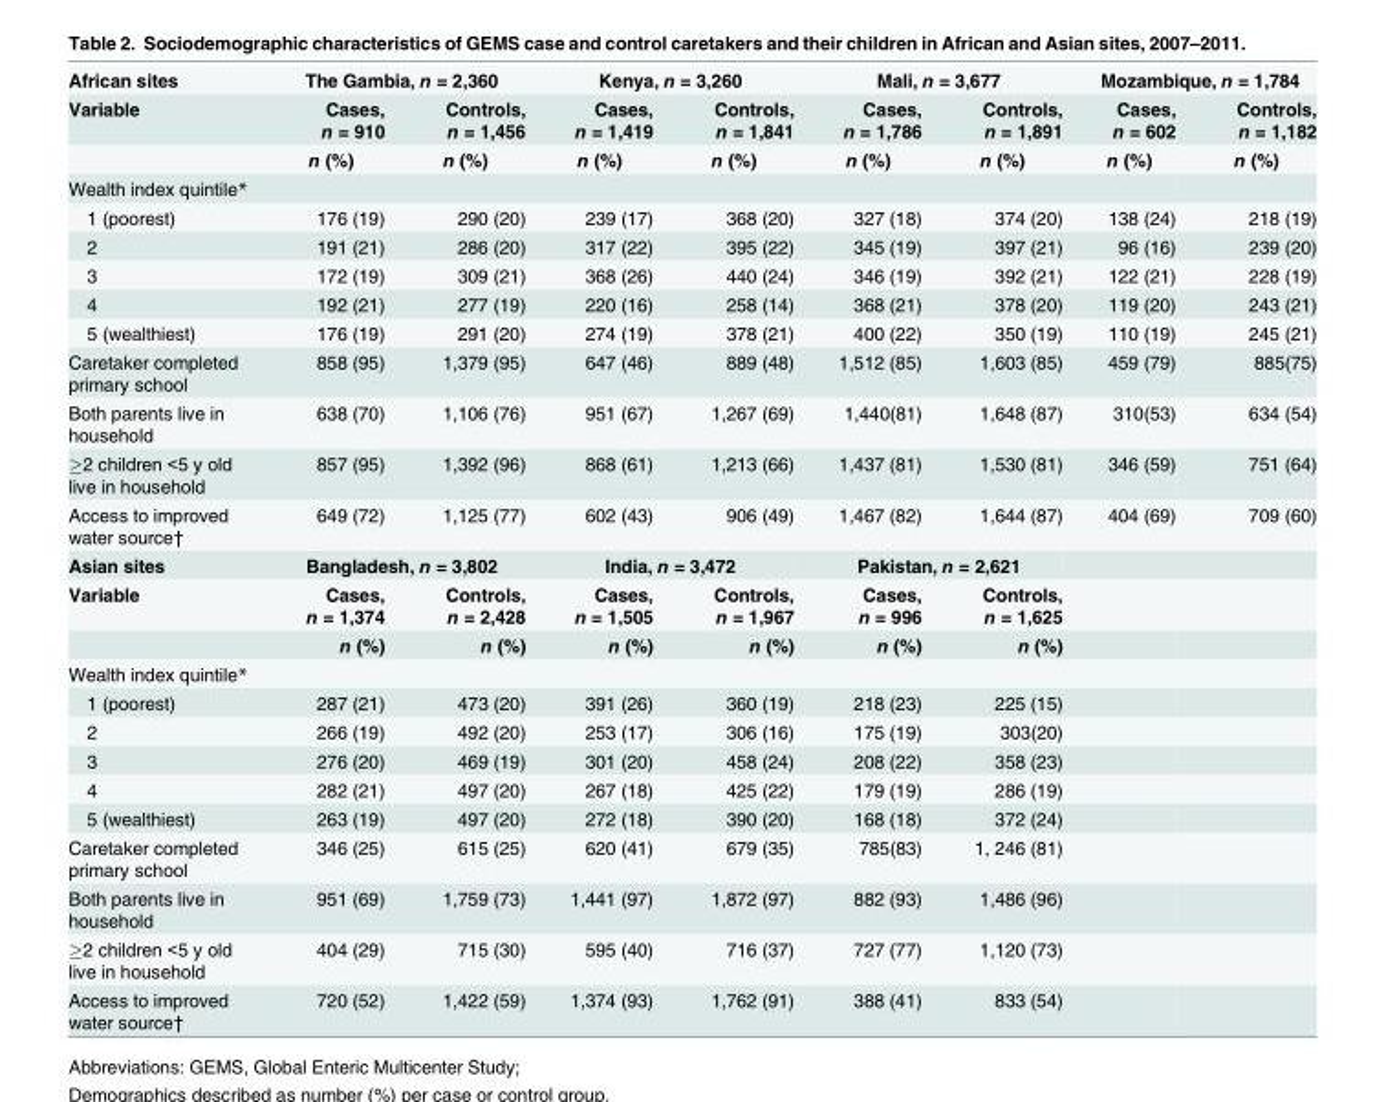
<table><tbody><tr><td>African sites</td><td colspan="2">The Gambia, n = 2,360</td><td colspan="2">Kenya, n = 3,260</td><td colspan="2">Mali, n = 3,677</td><td colspan="2">Mozambique, n = 1,784</td></tr><tr><td rowspan="2">Variable</td><td>Cases, n = 910</td><td>Controls, n = 1,456</td><td>Cases, n = 1,419</td><td>Controls, n = 1,841</td><td>Cases, n = 1,786</td><td>Controls, n = 1,891</td><td>Cases, n = 602</td><td>Controls, n = 1,182</td></tr><tr><td>n (%)</td><td>n (%)</td><td>n (%)</td><td>n (%)</td><td>n (%)</td><td>n (%)</td><td>n (%)</td><td>n (%)</td></tr><tr><td colspan="9">Wealth index quintile*</td></tr><tr><td>1 (poorest)</td><td>176 (19)</td><td>290 (20)</td><td>239 (17)</td><td>368 (20)</td><td>327 (18)</td><td>374 (20)</td><td>138 (24)</td><td>218 (19)</td></tr><tr><td>2</td><td>191 (21)</td><td>286 (20)</td><td>317 (22)</td><td>395 (22)</td><td>345 (19)</td><td>397 (21)</td><td>96 (16)</td><td>239 (20)</td></tr><tr><td>3</td><td>172 (19)</td><td>309 (21)</td><td>368 (26)</td><td>440 (24)</td><td>346 (19)</td><td>392 (21)</td><td>122 (21)</td><td>228 (19)</td></tr><tr><td>4</td><td>192 (21)</td><td>277 (19)</td><td>220 (16)</td><td>258 (14)</td><td>368 (21)</td><td>378 (20)</td><td>119 (20)</td><td>243 (21)</td></tr><tr><td>5 (wealthiest)</td><td>176 (19)</td><td>291 (20)</td><td>274 (19)</td><td>378 (21)</td><td>400 (22)</td><td>350 (19)</td><td>110 (19)</td><td>245 (21)</td></tr><tr><td>Caretaker completed primary school</td><td>858 (95)</td><td>1,379 (95)</td><td>647 (46)</td><td>889 (48)</td><td>1,512 (85)</td><td>1,603 (85)</td><td>459 (79)</td><td>885(75)</td></tr><tr><td>Both parents live in household</td><td>638 (70)</td><td>1,106 (76)</td><td>951 (67)</td><td>1,267 (69)</td><td>1,440(81)</td><td>1,648 (87)</td><td>310(53)</td><td>634 (54)</td></tr><tr><td>≥2 children &lt;5 y old live in household</td><td>857 (95)</td><td>1,392 (96)</td><td>868 (61)</td><td>1,213 (66)</td><td>1,437 (81)</td><td>1,530 (81)</td><td>346 (59)</td><td>751 (64)</td></tr><tr><td>Access to improved water source†</td><td>649 (72)</td><td>1,125 (77)</td><td>602 (43)</td><td>906 (49)</td><td>1,467 (82)</td><td>1,644 (87)</td><td>404 (69)</td><td>709 (60)</td></tr><tr><td>Asian sites</td><td colspan="2">Bangladesh, n = 3,802</td><td colspan="2">India, n = 3,472</td><td colspan="2">Pakistan, n = 2,621</td><td colspan="2"></td></tr><tr><td rowspan="2">Variable</td><td>Cases, n = 1,374</td><td>Controls, n = 2,428</td><td>Cases, n = 1,505</td><td>Controls, n = 1,967</td><td>Cases, n = 996</td><td>Controls, n = 1,625</td><td></td><td></td></tr><tr><td>n (%)</td><td>n (%)</td><td>n (%)</td><td>n (%)</td><td>n (%)</td><td>n (%)</td><td></td><td></td></tr><tr><td colspan="9">Wealth index quintile*</td></tr><tr><td>1 (poorest)</td><td>287 (21)</td><td>473 (20)</td><td>391 (26)</td><td>360 (19)</td><td>218 (23)</td><td>225 (15)</td><td></td><td></td></tr><tr><td>2</td><td>266 (19)</td><td>492 (20)</td><td>253 (17)</td><td>306 (16)</td><td>175 (19)</td><td>303(20)</td><td></td><td></td></tr><tr><td>3</td><td>276 (20)</td><td>469 (19)</td><td>301 (20)</td><td>458 (24)</td><td>208 (22)</td><td>358 (23)</td><td></td><td></td></tr><tr><td>4</td><td>282 (21)</td><td>497 (20)</td><td>267 (18)</td><td>425 (22)</td><td>179 (19)</td><td>286 (19)</td><td></td><td></td></tr><tr><td>5 (wealthiest)</td><td>263 (19)</td><td>497 (20)</td><td>272 (18)</td><td>390 (20)</td><td>168 (18)</td><td>372 (24)</td><td></td><td></td></tr><tr><td>Caretaker completed primary school</td><td>346 (25)</td><td>615 (25)</td><td>620 (41)</td><td>679 (35)</td><td>785(83)</td><td>1, 246 (81)</td><td></td><td></td></tr><tr><td>Both parents live in household</td><td>951 (69)</td><td>1,759 (73)</td><td>1,441 (97)</td><td>1,872 (97)</td><td>882 (93)</td><td>1,486 (96)</td><td></td><td></td></tr><tr><td>≥2 children &lt;5 y old live in household</td><td>404 (29)</td><td>715 (30)</td><td>595 (40)</td><td>716 (37)</td><td>727 (77)</td><td>1,120 (73)</td><td></td><td></td></tr><tr><td>Access to improved water source†</td><td>720 (52)</td><td>1,422 (59)</td><td>1,374 (93)</td><td>1,762 (91)</td><td>388 (41)</td><td>833 (54)</td><td></td><td></td></tr></tbody></table>